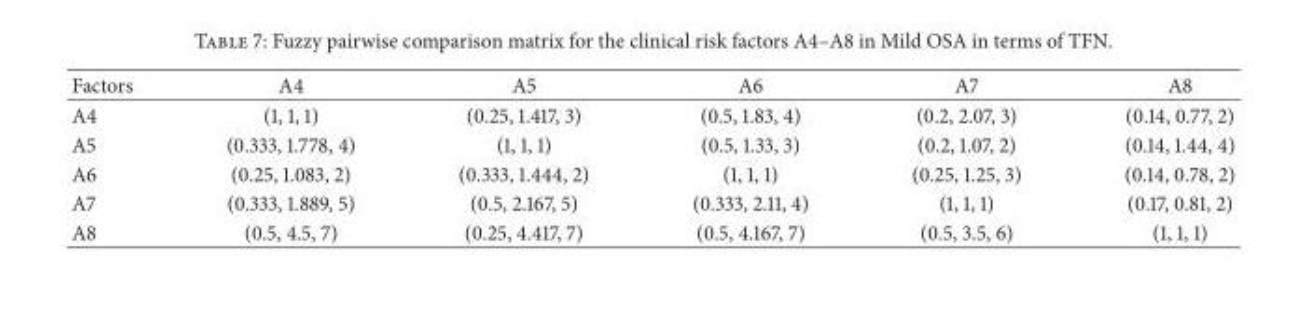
<table><thead><tr><td>Factors</td><td>A4</td><td>A5</td><td>A6</td><td>A7</td><td>A8</td></tr></thead><tbody><tr><td>A4</td><td>(1, 1, 1)</td><td>(0.25, 1.417, 3)</td><td>(0.5, 1.83, 4)</td><td>(0.2, 2.07, 3)</td><td>(0.14, 0.77, 2)</td></tr><tr><td>A5</td><td>(0.333, 1.778, 4)</td><td>(1, 1, 1)</td><td>(0.5, 1.33, 3)</td><td>(0.2, 1.07, 2)</td><td>(0.14, 1.44, 4)</td></tr><tr><td>A6</td><td>(0.25, 1.083, 2)</td><td>(0.333, 1.444, 2)</td><td>(1, 1, 1)</td><td>(0.25, 1.25, 3)</td><td>(0.14, 0.78, 2)</td></tr><tr><td>A7</td><td>(0.333, 1.889, 5)</td><td>(0.5, 2.167, 5)</td><td>(0.333, 2.11, 4)</td><td>(1, 1, 1)</td><td>(0.17, 0.81, 2)</td></tr><tr><td>A8</td><td>(0.5, 4.5, 7)</td><td>(0.25, 4.417, 7)</td><td>(0.5, 4.167, 7)</td><td>(0.5, 3.5, 6)</td><td>(1, 1, 1)</td></tr></tbody></table>